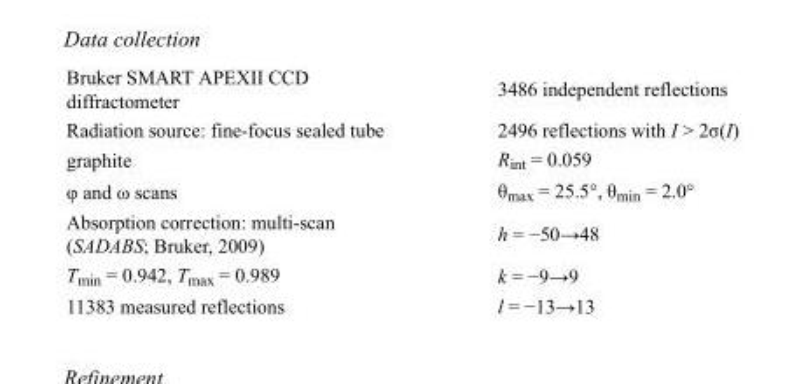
<table><tbody><tr><td>Bruker SMART APEXII CCD diffractometer</td><td>3486 independent reflections</td></tr><tr><td>Radiation source: fine-focus sealed tube</td><td>2496 reflections with I &gt; 2σ(I)</td></tr><tr><td>graphite</td><td>R<sub>int</sub> = 0.059</td></tr><tr><td>φ and ω scans</td><td>θ<sub>max</sub> = 25.5°, θ<sub>min</sub> = 2.0°</td></tr><tr><td>Absorption correction: multi-scan (SADABS; Bruker, 2009)</td><td>h = −50→48</td></tr><tr><td>T<sub>min</sub> = 0.942, T<sub>max</sub> = 0.989</td><td>k = −9→9</td></tr><tr><td>11383 measured reflections</td><td>l = −13→13</td></tr></tbody></table>